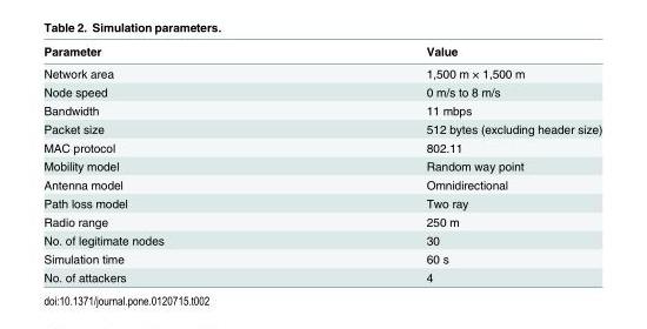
<table><thead><tr><td>Parameter</td><td>Value</td></tr></thead><tbody><tr><td>Network area</td><td>1,500 m × 1,500 m</td></tr><tr><td>Node speed</td><td>0 m/s to 8 m/s</td></tr><tr><td>Bandwidth</td><td>11 mbps</td></tr><tr><td>Packet size</td><td>512 bytes (excluding header size)</td></tr><tr><td>MAC protocol</td><td>802.11</td></tr><tr><td>Mobility model</td><td>Random way point</td></tr><tr><td>Antenna model</td><td>Omnidirectional</td></tr><tr><td>Path loss model</td><td>Two ray</td></tr><tr><td>Radio range</td><td>250 m</td></tr><tr><td>No. of legitimate nodes</td><td>30</td></tr><tr><td>Simulation time</td><td>60 s</td></tr><tr><td>No. of attackers</td><td>4</td></tr></tbody></table>